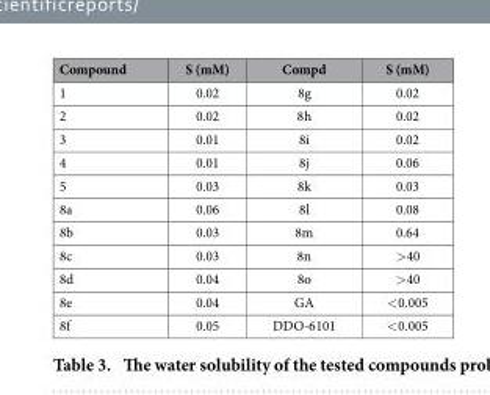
<table><thead><tr><td>Compound</td><td>S (mM)</td><td>Compd</td><td>S (mM)</td></tr></thead><tbody><tr><td>1</td><td>0.02</td><td>8g</td><td>0.02</td></tr><tr><td>2</td><td>0.02</td><td>8h</td><td>0.02</td></tr><tr><td>3</td><td>0.01</td><td>8i</td><td>0.02</td></tr><tr><td>4</td><td>0.01</td><td>8j</td><td>0.06</td></tr><tr><td>5</td><td>0.03</td><td>8k</td><td>0.03</td></tr><tr><td>8a</td><td>0.06</td><td>8l</td><td>0.08</td></tr><tr><td>8b</td><td>0.03</td><td>8m</td><td>0.64</td></tr><tr><td>8c</td><td>0.03</td><td>8n</td><td>&gt; 40</td></tr><tr><td>8d</td><td>0.04</td><td>8o</td><td>&gt; 40</td></tr><tr><td>8e</td><td>0.04</td><td>GA</td><td>&lt; 0.005</td></tr><tr><td>8f</td><td>0.05</td><td>DDO-6101</td><td>&lt; 0.005</td></tr></tbody></table>